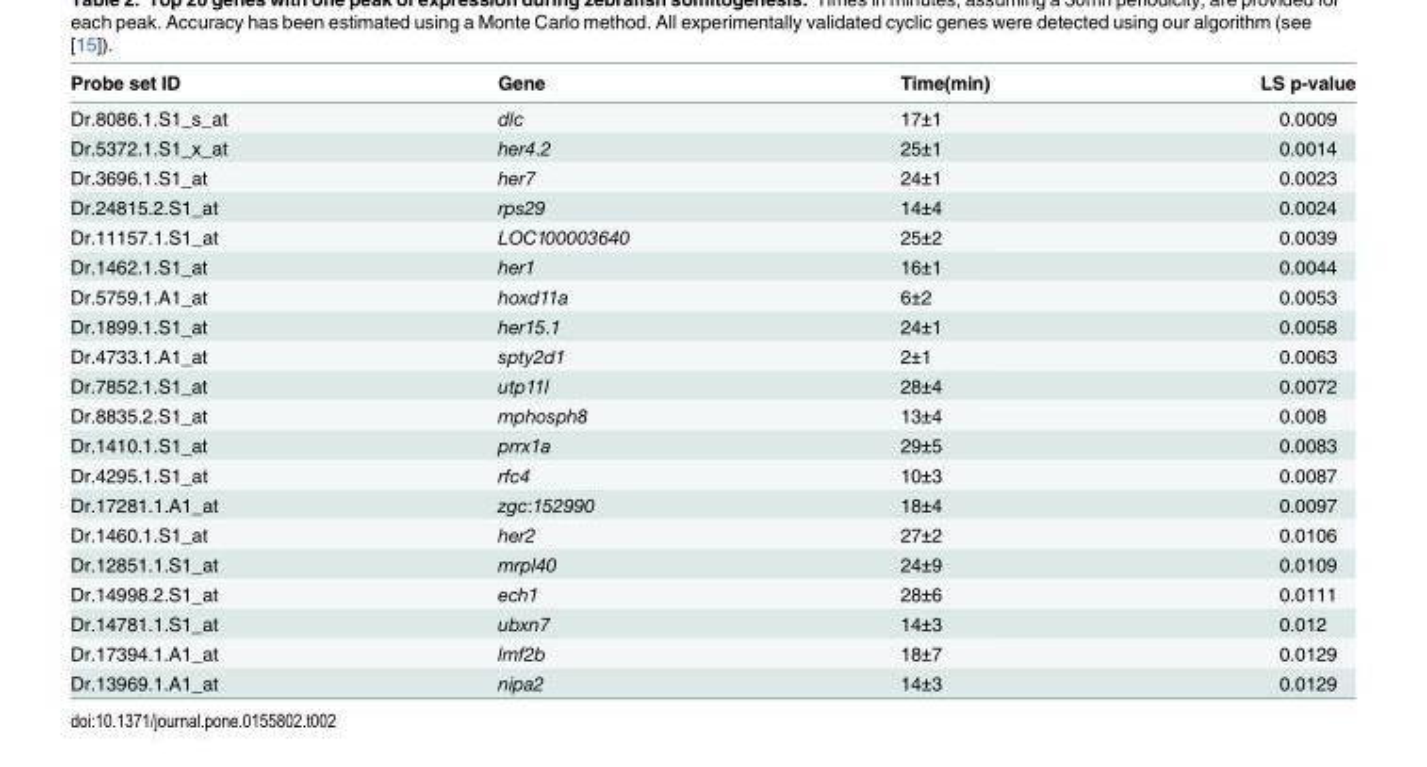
<table><thead><tr><td>Probe set ID</td><td>Gene</td><td>Time(min)</td><td>LS p-value</td></tr></thead><tbody><tr><td>Dr.8086.1.S1_s_at</td><td>dlc</td><td>17±1</td><td>0.0009</td></tr><tr><td>Dr.5372.1.S1_x_at</td><td>her4.2</td><td>25±1</td><td>0.0014</td></tr><tr><td>Dr.3696.1.S1_at</td><td>her7</td><td>24±1</td><td>0.0023</td></tr><tr><td>Dr.24815.2.S1_at</td><td>rps29</td><td>14±4</td><td>0.0024</td></tr><tr><td>Dr.11157.1.S1_at</td><td>LOC100003640</td><td>25±2</td><td>0.0039</td></tr><tr><td>Dr.1462.1.S1_at</td><td>her1</td><td>16±1</td><td>0.0044</td></tr><tr><td>Dr.5759.1.A1_at</td><td>hoxd11a</td><td>6±2</td><td>0.0053</td></tr><tr><td>Dr.1899.1.S1_at</td><td>her15.1</td><td>24±1</td><td>0.0058</td></tr><tr><td>Dr.4733.1.A1_at</td><td>spty2d1</td><td>2±1</td><td>0.0063</td></tr><tr><td>Dr.7852.1.S1_at</td><td>utp11l</td><td>28±4</td><td>0.0072</td></tr><tr><td>Dr.8835.2.S1_at</td><td>mphosph8</td><td>13±4</td><td>0.008</td></tr><tr><td>Dr.1410.1.S1_at</td><td>prrx1a</td><td>29±5</td><td>0.0083</td></tr><tr><td>Dr.4295.1.S1_at</td><td>rfc4</td><td>10±3</td><td>0.0087</td></tr><tr><td>Dr.17281.1.A1_at</td><td>zgc:152990</td><td>18±4</td><td>0.0097</td></tr><tr><td>Dr.1460.1.S1_at</td><td>her2</td><td>27±2</td><td>0.0106</td></tr><tr><td>Dr.12851.1.S1_at</td><td>mrpl40</td><td>24±9</td><td>0.0109</td></tr><tr><td>Dr.14998.2.S1_at</td><td>ech1</td><td>28±6</td><td>0.0111</td></tr><tr><td>Dr.14781.1.S1_at</td><td>ubxn7</td><td>14±3</td><td>0.012</td></tr><tr><td>Dr.17394.1.A1_at</td><td>lmf2b</td><td>18±7</td><td>0.0129</td></tr><tr><td>Dr.13969.1.A1_at</td><td>nipa2</td><td>14±3</td><td>0.0129</td></tr></tbody></table>